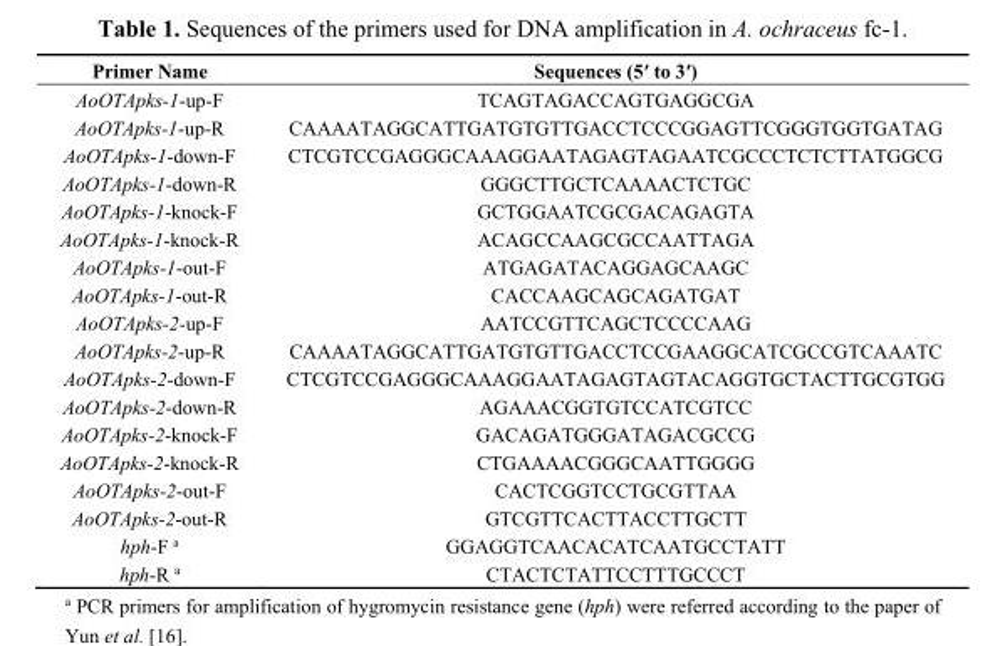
<table><thead><tr><td>Primer Name</td><td>Sequences (5ʹ to 3′)</td></tr></thead><tbody><tr><td>AoOTApks-1-up-F</td><td>TCAGTAGACCAGTGAGGCGA</td></tr><tr><td>AoOTApks-1-up-R</td><td>CAAAATAGGCATTGATGTGTTGACCTCCCGGAGTTCGGGTGGTGATAG</td></tr><tr><td>AoOTApks-1-down-F</td><td>CTCGTCCGAGGGCAAAGGAATAGAGTAGAATCGCCCTCTCTTATGGCG</td></tr><tr><td>AoOTApks-1-down-R</td><td>GGGCTTGCTCAAAACTCTGC</td></tr><tr><td>AoOTApks-1-knock-F</td><td>GCTGGAATCGCGACAGAGTA</td></tr><tr><td>AoOTApks-1-knock-R</td><td>ACAGCCAAGCGCCAATTAGA</td></tr><tr><td>AoOTApks-1-out-F</td><td>ATGAGATACAGGAGCAAGC</td></tr><tr><td>AoOTApks-1-out-R</td><td>CACCAAGCAGCAGATGAT</td></tr><tr><td>AoOTApks-2-up-F</td><td>AATCCGTTCAGCTCCCCAAG</td></tr><tr><td>AoOTApks-2-up-R</td><td>CAAAATAGGCATTGATGTGTTGACCTCCGAAGGCATCGCCGTCAAATC</td></tr><tr><td>AoOTApks-2-down-F</td><td>CTCGTCCGAGGGCAAAGGAATAGAGTAGTACAGGTGCTACTTGCGTGG</td></tr><tr><td>AoOTApks-2-down-R</td><td>AGAAACGGTGTCCATCGTCC</td></tr><tr><td>AoOTApks-2-knock-F</td><td>GACAGATGGGATAGACGCCG</td></tr><tr><td>AoOTApks-2-knock-R</td><td>CTGAAAACGGGCAATTGGGG</td></tr><tr><td>AoOTApks-2-out-F</td><td>CACTCGGTCCTGCGTTAA</td></tr><tr><td>AoOTApks-2-out-R</td><td>GTCGTTCACTTACCTTGCTT</td></tr><tr><td>hph-F <sup>a</sup></td><td>GGAGGTCAACACATCAATGCCTATT</td></tr><tr><td>hph-R <sup>a</sup></td><td>CTACTCTATTCCTTTGCCCT</td></tr></tbody></table>